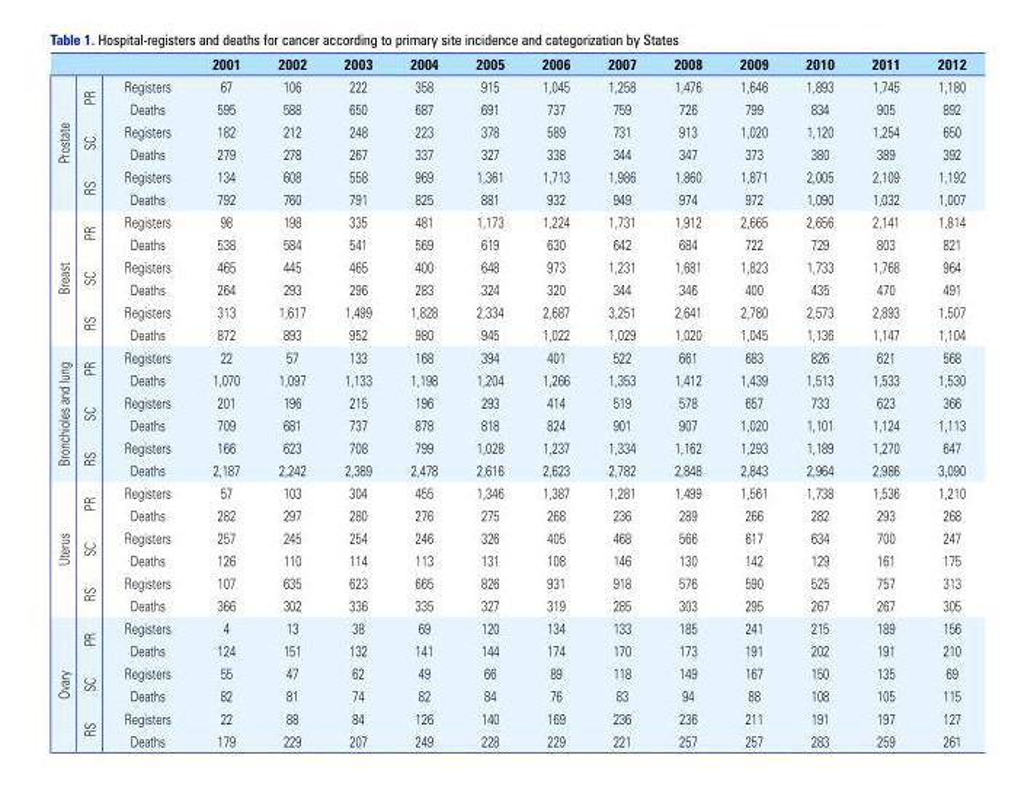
<table><thead><tr><td></td><td></td><td></td><td>2001</td><td>2002</td><td>2003</td><td>2004</td><td>2005</td><td>2006</td><td>2007</td><td>2008</td><td>2009</td><td>2010</td><td>2011</td><td>2012</td></tr></thead><tbody><tr><td rowspan="6">Prostate</td><td rowspan="2">PR</td><td>Registers</td><td>67</td><td>106</td><td>222</td><td>358</td><td>915</td><td>1,045</td><td>1,258</td><td>1,476</td><td>1,646</td><td>1,893</td><td>1,745</td><td>1,180</td></tr><tr><td>Deaths</td><td>595</td><td>588</td><td>650</td><td>687</td><td>691</td><td>737</td><td>759</td><td>726</td><td>799</td><td>834</td><td>905</td><td>892</td></tr><tr><td rowspan="2">SC</td><td>Registers</td><td>182</td><td>212</td><td>248</td><td>223</td><td>378</td><td>589</td><td>731</td><td>913</td><td>1,020</td><td>1,120</td><td>1,254</td><td>650</td></tr><tr><td>Deaths</td><td>279</td><td>278</td><td>267</td><td>337</td><td>327</td><td>338</td><td>344</td><td>347</td><td>373</td><td>380</td><td>389</td><td>392</td></tr><tr><td rowspan="2">RS</td><td>Registers</td><td>134</td><td>608</td><td>558</td><td>969</td><td>1,361</td><td>1,713</td><td>1,986</td><td>1,860</td><td>1,871</td><td>2,005</td><td>2,109</td><td>1,192</td></tr><tr><td>Deaths</td><td>792</td><td>760</td><td>791</td><td>825</td><td>881</td><td>932</td><td>949</td><td>974</td><td>972</td><td>1,090</td><td>1,032</td><td>1,007</td></tr><tr><td rowspan="6">Breast</td><td rowspan="2">PR</td><td>Registers</td><td>98</td><td>198</td><td>335</td><td>481</td><td>1,173</td><td>1,224</td><td>1,731</td><td>1,912</td><td>2,665</td><td>2,656</td><td>2,141</td><td>1,814</td></tr><tr><td>Deaths</td><td>538</td><td>584</td><td>541</td><td>569</td><td>619</td><td>630</td><td>642</td><td>684</td><td>722</td><td>729</td><td>803</td><td>821</td></tr><tr><td rowspan="2">SC</td><td>Registers</td><td>465</td><td>445</td><td>465</td><td>400</td><td>648</td><td>973</td><td>1,231</td><td>1,681</td><td>1,823</td><td>1,733</td><td>1,768</td><td>964</td></tr><tr><td>Deaths</td><td>264</td><td>293</td><td>296</td><td>283</td><td>324</td><td>320</td><td>344</td><td>346</td><td>400</td><td>435</td><td>470</td><td>491</td></tr><tr><td rowspan="2">RS</td><td>Registers</td><td>313</td><td>1,617</td><td>1,499</td><td>1,828</td><td>2,334</td><td>2,687</td><td>3,251</td><td>2,641</td><td>2,780</td><td>2,573</td><td>2,893</td><td>1,507</td></tr><tr><td>Deaths</td><td>872</td><td>893</td><td>952</td><td>980</td><td>945</td><td>1,022</td><td>1,029</td><td>1,020</td><td>1,045</td><td>1,136</td><td>1,147</td><td>1,104</td></tr><tr><td rowspan="6">Bronchioles and lung</td><td rowspan="2">PR</td><td>Registers</td><td>22</td><td>57</td><td>133</td><td>168</td><td>394</td><td>401</td><td>522</td><td>661</td><td>683</td><td>826</td><td>621</td><td>568</td></tr><tr><td>Deaths</td><td>1,070</td><td>1,097</td><td>1,133</td><td>1,198</td><td>1,204</td><td>1,266</td><td>1,353</td><td>1,412</td><td>1,439</td><td>1,513</td><td>1,533</td><td>1,530</td></tr><tr><td rowspan="2">SC</td><td>Registers</td><td>201</td><td>196</td><td>215</td><td>196</td><td>293</td><td>414</td><td>519</td><td>578</td><td>657</td><td>733</td><td>623</td><td>366</td></tr><tr><td>Deaths</td><td>709</td><td>681</td><td>737</td><td>878</td><td>818</td><td>824</td><td>901</td><td>907</td><td>1,020</td><td>1,101</td><td>1,124</td><td>1,113</td></tr><tr><td rowspan="2">RS</td><td>Registers</td><td>166</td><td>623</td><td>708</td><td>799</td><td>1,028</td><td>1,237</td><td>1,334</td><td>1,162</td><td>1,293</td><td>1,189</td><td>1,270</td><td>647</td></tr><tr><td>Deaths</td><td>2,187</td><td>2,242</td><td>2,389</td><td>2,478</td><td>2,616</td><td>2,623</td><td>2,782</td><td>2,848</td><td>2,843</td><td>2,964</td><td>2,986</td><td>3,090</td></tr><tr><td rowspan="6">Uterus</td><td rowspan="2">PR</td><td>Registers</td><td>57</td><td>103</td><td>304</td><td>455</td><td>1,346</td><td>1,387</td><td>1,281</td><td>1,499</td><td>1,561</td><td>1,738</td><td>1,536</td><td>1,210</td></tr><tr><td>Deaths</td><td>282</td><td>297</td><td>280</td><td>276</td><td>275</td><td>268</td><td>236</td><td>289</td><td>266</td><td>282</td><td>293</td><td>268</td></tr><tr><td rowspan="2">SC</td><td>Registers</td><td>257</td><td>245</td><td>254</td><td>246</td><td>326</td><td>405</td><td>468</td><td>566</td><td>617</td><td>634</td><td>700</td><td>247</td></tr><tr><td>Deaths</td><td>126</td><td>110</td><td>114</td><td>113</td><td>131</td><td>108</td><td>146</td><td>130</td><td>142</td><td>129</td><td>161</td><td>175</td></tr><tr><td rowspan="2">RS</td><td>Registers</td><td>107</td><td>635</td><td>623</td><td>665</td><td>826</td><td>931</td><td>918</td><td>576</td><td>590</td><td>525</td><td>757</td><td>313</td></tr><tr><td>Deaths</td><td>366</td><td>302</td><td>336</td><td>335</td><td>327</td><td>319</td><td>285</td><td>303</td><td>295</td><td>267</td><td>267</td><td>305</td></tr><tr><td rowspan="6">Ovary</td><td rowspan="2">PR</td><td>Registers</td><td>4</td><td>13</td><td>38</td><td>69</td><td>120</td><td>134</td><td>133</td><td>185</td><td>241</td><td>215</td><td>189</td><td>156</td></tr><tr><td>Deaths</td><td>124</td><td>151</td><td>132</td><td>141</td><td>144</td><td>174</td><td>170</td><td>173</td><td>191</td><td>202</td><td>191</td><td>210</td></tr><tr><td rowspan="2">SC</td><td>Registers</td><td>55</td><td>47</td><td>62</td><td>49</td><td>66</td><td>89</td><td>118</td><td>149</td><td>167</td><td>150</td><td>135</td><td>69</td></tr><tr><td>Deaths</td><td>82</td><td>81</td><td>74</td><td>82</td><td>84</td><td>76</td><td>83</td><td>94</td><td>88</td><td>108</td><td>105</td><td>115</td></tr><tr><td rowspan="2">RS</td><td>Registers</td><td>22</td><td>88</td><td>84</td><td>126</td><td>140</td><td>169</td><td>236</td><td>236</td><td>211</td><td>191</td><td>197</td><td>127</td></tr><tr><td>Deaths</td><td>179</td><td>229</td><td>207</td><td>249</td><td>228</td><td>229</td><td>221</td><td>257</td><td>257</td><td>283</td><td>259</td><td>261</td></tr></tbody></table>